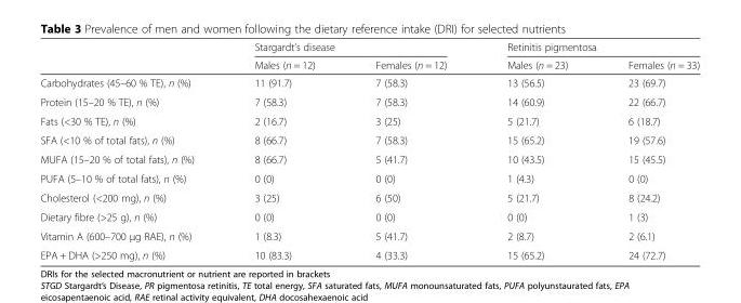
<table><thead><tr><td rowspan="2"></td><td colspan="2">Stargardt’s disease</td><td colspan="2">Retinitis pigmentosa</td></tr><tr><td>Males (n = 12)</td><td>Females (n = 12)</td><td>Males (n = 23)</td><td>Females (n = 33)</td></tr></thead><tbody><tr><td>Carbohydrates (45–60 % TE), n (%)</td><td>11 (91.7)</td><td>7 (58.3)</td><td>13 (56.5)</td><td>23 (69.7)</td></tr><tr><td>Protein (15–20 % TE), n (%)</td><td>7 (58.3)</td><td>7 (58.3)</td><td>14 (60.9)</td><td>22 (66.7)</td></tr><tr><td>Fats (&lt;30 % TE), n (%)</td><td>2 (16.7)</td><td>3 (25)</td><td>5 (21.7)</td><td>6 (18.7)</td></tr><tr><td>SFA (&lt;10 % of total fats), n (%)</td><td>8 (66.7)</td><td>7 (58.3)</td><td>15 (65.2)</td><td>19 (57.6)</td></tr><tr><td>MUFA (15–20 % of total fats), n (%)</td><td>8 (66.7)</td><td>5 (41.7)</td><td>10 (43.5)</td><td>15 (45.5)</td></tr><tr><td>PUFA (5–10 % of total fats), n (%)</td><td>0 (0)</td><td>0 (0)</td><td>1 (4.3)</td><td>0 (0)</td></tr><tr><td>Cholesterol (&lt;200 mg), n (%)</td><td>3 (25)</td><td>6 (50)</td><td>5 (21.7)</td><td>8 (24.2)</td></tr><tr><td>Dietary fibre (&gt;25 g), n (%)</td><td>0 (0)</td><td>0 (0)</td><td>0 (0)</td><td>1 (3)</td></tr><tr><td>Vitamin A (600–700 μg RAE), n (%)</td><td>1 (8.3)</td><td>5 (41.7)</td><td>2 (8.7)</td><td>2 (6.1)</td></tr><tr><td>EPA + DHA (&gt;250 mg), n (%)</td><td>10 (83.3)</td><td>4 (33.3)</td><td>15 (65.2)</td><td>24 (72.7)</td></tr></tbody></table>